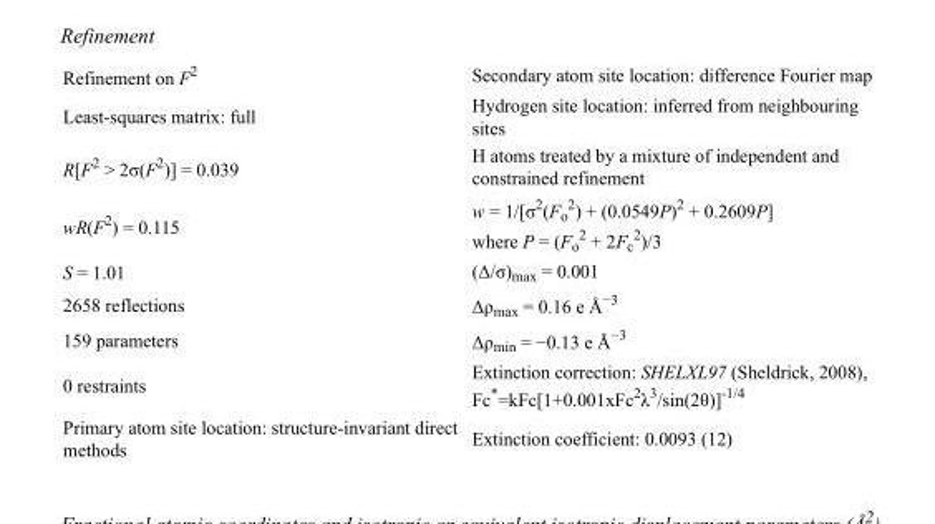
<table><tbody><tr><td>Refinement on F<sup>2</sup></td><td>Secondary atom site location: difference Fourier map</td></tr><tr><td>Least-squares matrix: full</td><td>Hydrogen site location: inferred from neighbouring sites</td></tr><tr><td>R[F<sup>2</sup> &gt; 2σ(F<sup>2</sup>)] = 0.039</td><td>H atoms treated by a mixture of independent and constrained refinement</td></tr><tr><td>wR(F<sup>2</sup>) = 0.115</td><td>w = 1/[σ<sup>2</sup>(F<sub>o</sub> <sup>2</sup>) + (0.0549P)<sup>2</sup> + 0.2609P] where P = (F<sub>o</sub> <sup>2</sup> + 2F<sub>c</sub> <sup>2</sup>)/3</td></tr><tr><td>S = 1.01</td><td>(Δ/σ)<sub>max</sub> = 0.001</td></tr><tr><td>2658 reflections</td><td>Δρ<sub>max</sub> = 0.16 e Å<sup>−3</sup></td></tr><tr><td>159 parameters</td><td>Δρ<sub>min</sub> = −0.13 e Å<sup>−3</sup></td></tr><tr><td>0 restraints</td><td>Extinction correction: SHELXL97 (Sheldrick, 2008), Fc*=kFc[1+0.001xFc<sup>2</sup>λ<sup>3</sup>/sin(2θ)]<sup>-1/4</sup></td></tr><tr><td>Primary atom site location: structure-invariant direct methods</td><td>Extinction coefficient: 0.0093 (12)</td></tr></tbody></table>